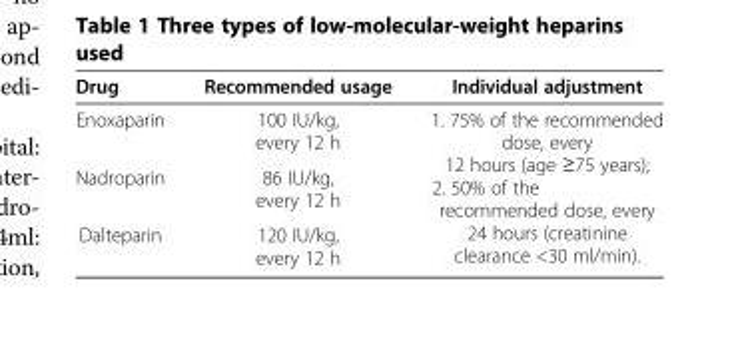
<table><thead><tr><td>Drug</td><td>Recommended usage</td><td>Individual adjustment</td></tr></thead><tbody><tr><td>Enoxaparin</td><td>100 IU/kg, every 12 h</td><td rowspan="3">1. 75% of the recommended dose, every 12 hours (age ≥75 years); 2. 50% of the recommended dose, every 24 hours (creatinine clearance &lt;30 ml/min).</td></tr><tr><td>Nadroparin</td><td>86 IU/kg, every 12 h</td></tr><tr><td>Dalteparin</td><td>120 IU/kg, every 12 h</td></tr></tbody></table>